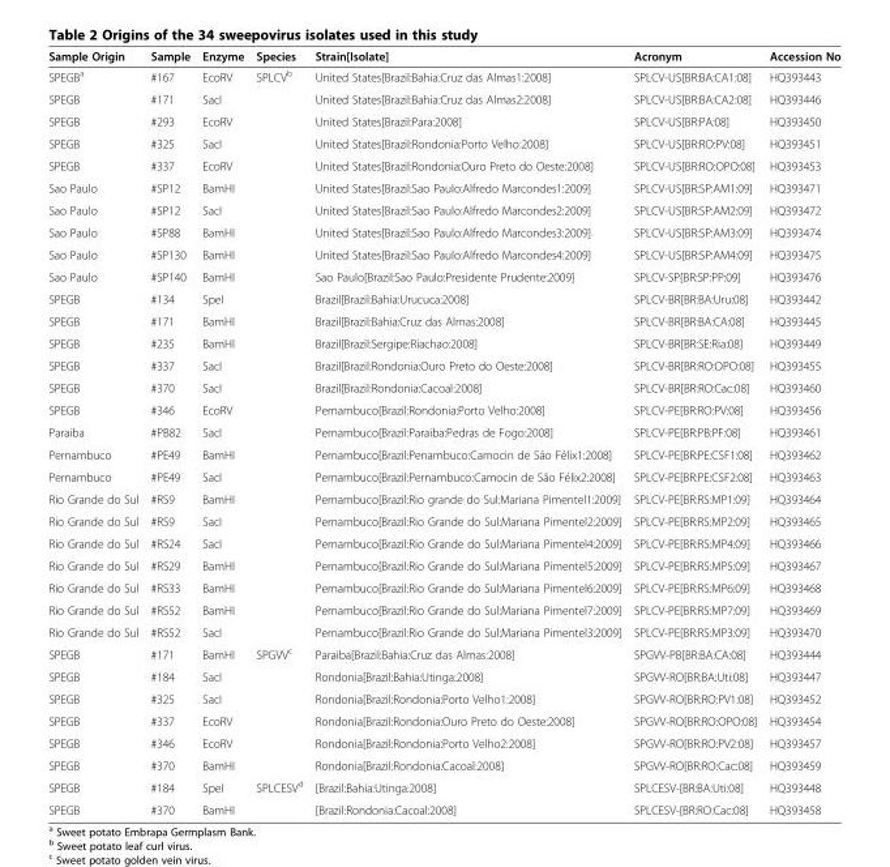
<table><thead><tr><td>Sample Origin</td><td>Sample</td><td>Enzyme</td><td>Species</td><td>Strain[Isolate]</td><td>Acronym</td><td>Accession No</td></tr></thead><tbody><tr><td>SPEGB<sup>a</sup></td><td>#167</td><td>EcoRV</td><td>SPLCV<sup>b</sup></td><td>United States[Brazil:Bahia:Cruz das Almas1:2008]</td><td>SPLCV-US[BR:BA:CA1:08]</td><td>HQ393443</td></tr><tr><td>SPEGB</td><td>#171</td><td>SacI</td><td></td><td>United States[Brazil:Bahia:Cruz das Almas2:2008]</td><td>SPLCV-US[BR:BA:CA2:08]</td><td>HQ393446</td></tr><tr><td>SPEGB</td><td>#293</td><td>EcoRV</td><td></td><td>United States[Brazil:Para:2008]</td><td>SPLCV-US[BR:PA:08]</td><td>HQ393450</td></tr><tr><td>SPEGB</td><td>#325</td><td>SacI</td><td></td><td>United States[Brazil:Rondonia:Porto Velho:2008]</td><td>SPLCV-US[BR:RO:PV:08]</td><td>HQ393451</td></tr><tr><td>SPEGB</td><td>#337</td><td>EcoRV</td><td></td><td>United States[Brazil:Rondonia:Ouro Preto do Oeste:2008]</td><td>SPLCV-US[BR:RO:OPO:08]</td><td>HQ393453</td></tr><tr><td>Sao Paulo</td><td>#SP12</td><td>BamHI</td><td></td><td>United States[Brazil:Sao Paulo:Alfredo Marcondes1:2009]</td><td>SPLCV-US[BR:SP:AM1:09]</td><td>HQ393471</td></tr><tr><td>Sao Paulo</td><td>#SP12</td><td>SacI</td><td></td><td>United States[Brazil:Sao Paulo:Alfredo Marcondes2:2009]</td><td>SPLCV-US[BR:SP:AM2:09]</td><td>HQ393472</td></tr><tr><td>Sao Paulo</td><td>#SP88</td><td>BamHI</td><td></td><td>United States[Brazil:Sao Paulo:Alfredo Marcondes3:2009]</td><td>SPLCV-US[BR:SP:AM3:09]</td><td>HQ393474</td></tr><tr><td>Sao Paulo</td><td>#SP130</td><td>BamHI</td><td></td><td>United States[Brazil:Sao Paulo:Alfredo Marcondes4:2009]</td><td>SPLCV-US[BR:SP:AM4:09]</td><td>HQ393475</td></tr><tr><td>Sao Paulo</td><td>#SP140</td><td>BamHI</td><td></td><td>Sao Paulo[Brazil:Sao Paulo:Presidente Prudente:2009]</td><td>SPLCV-SP[BR:SP:PP:09]</td><td>HQ393476</td></tr><tr><td>SPEGB</td><td>#134</td><td>SpeI</td><td></td><td>Brazil[Brazil:Bahia:Urucuca:2008]</td><td>SPLCV-BR[BR:BA:Uru:08]</td><td>HQ393442</td></tr><tr><td>SPEGB</td><td>#171</td><td>BamHI</td><td></td><td>Brazil[Brazil:Bahia:Cruz das Almas:2008]</td><td>SPLCV-BR[BR:BA:CA:08]</td><td>HQ393445</td></tr><tr><td>SPEGB</td><td>#235</td><td>BamHI</td><td></td><td>Brazil[Brazil:Sergipe:Riachao:2008]</td><td>SPLCV-BR[BR:SE:Ria:08]</td><td>HQ393449</td></tr><tr><td>SPEGB</td><td>#337</td><td>SacI</td><td></td><td>Brazil[Brazil:Rondonia:Ouro Preto do Oeste:2008]</td><td>SPLCV-BR[BR:RO:OPO:08]</td><td>HQ393455</td></tr><tr><td>SPEGB</td><td>#370</td><td>SacI</td><td></td><td>Brazil[Brazil:Rondonia:Cacoal:2008]</td><td>SPLCV-BR[BR:RO:Cac:08]</td><td>HQ393460</td></tr><tr><td>SPEGB</td><td>#346</td><td>EcoRV</td><td></td><td>Pernambuco[Brazil:Rondonia:Porto Velho:2008]</td><td>SPLCV-PE[BR:RO:PV:08]</td><td>HQ393456</td></tr><tr><td>Paraiba</td><td>#PB82</td><td>SacI</td><td></td><td>Pernambuco[Brazil:Paraiba:Pedras de Fogo:2008]</td><td>SPLCV-PE[BR:PB:PF:08]</td><td>HQ393461</td></tr><tr><td>Pernambuco</td><td>#PE49</td><td>BamHI</td><td></td><td>Pernambuco[Brazil:Penambuco:Camocin de São Félix1:2008]</td><td>SPLCV-PE[BR:PE:CSF1:08]</td><td>HQ393462</td></tr><tr><td>Pernambuco</td><td>#PE49</td><td>SacI</td><td></td><td>Pernambuco[Brazil:Pernambuco:Camocin de São Félix2:2008]</td><td>SPLCV-PE[BR:PE:CSF2:08]</td><td>HQ393463</td></tr><tr><td>Rio Grande do Sul</td><td>#RS9</td><td>BamHI</td><td></td><td>Pernambuco[Brazil:Rio grande do Sul:Mariana Pimentel1:2009]</td><td>SPLCV-PE[BR:RS:MP1:09]</td><td>HQ393464</td></tr><tr><td>Rio Grande do Sul</td><td>#RS9</td><td>SacI</td><td></td><td>Pernambuco[Brazil:Rio Grande do Sul:Mariana Pimentel2:2009]</td><td>SPLCV-PE[BR:RS:MP2:09]</td><td>HQ393465</td></tr><tr><td>Rio Grande do Sul</td><td>#RS24</td><td>SacI</td><td></td><td>Pernambuco[Brazil:Rio Grande do Sul:Mariana Pimentel4:2009]</td><td>SPLCV-PE[BR:RS:MP4:09]</td><td>HQ393466</td></tr><tr><td>Rio Grande do Sul</td><td>#RS29</td><td>BamHI</td><td></td><td>Pernambuco[Brazil:Rio Grande do Sul:Mariana Pimentel5:2009]</td><td>SPLCV-PE[BR:RS:MP5:09]</td><td>HQ393467</td></tr><tr><td>Rio Grande do Sul</td><td>#RS33</td><td>BamHI</td><td></td><td>Pernambuco[Brazil:Rio Grande do Sul:Mariana Pimentel6:2009]</td><td>SPLCV-PE[BR:RS:MP6:09]</td><td>HQ393468</td></tr><tr><td>Rio Grande do Sul</td><td>#RS52</td><td>BamHI</td><td></td><td>Pernambuco[Brazil:Rio Grande do Sul:Mariana Pimentel7:2009]</td><td>SPLCV-PE[BR:RS:MP7:09]</td><td>HQ393469</td></tr><tr><td>Rio Grande do Sul</td><td>#RS52</td><td>SacI</td><td></td><td>Pernambuco[Brazil:Rio Grande do Sul:Mariana Pimentel3:2009]</td><td>SPLCV-PE[BR:RS:MP3:09]</td><td>HQ393470</td></tr><tr><td>SPEGB</td><td>#171</td><td>BamHI</td><td>SPGVV<sup>c</sup></td><td>Paraiba[Brazil:Bahia:Cruz das Almas:2008]</td><td>SPGVV-PB[BR:BA:CA:08]</td><td>HQ393444</td></tr><tr><td>SPEGB</td><td>#184</td><td>SacI</td><td></td><td>Rondonia[Brazil:Bahia:Utinga:2008]</td><td>SPGVV-RO[BR:BA:Uti:08]</td><td>HQ393447</td></tr><tr><td>SPEGB</td><td>#325</td><td>SacI</td><td></td><td>Rondonia[Brazil:Rondonia:Porto Velho1:2008]</td><td>SPGVV-RO[BR:RO:PV1:08]</td><td>HQ393452</td></tr><tr><td>SPEGB</td><td>#337</td><td>EcoRV</td><td></td><td>Rondonia[Brazil:Rondonia:Ouro Preto do Oeste:2008]</td><td>SPGVV-RO[BR:RO:OPO:08]</td><td>HQ393454</td></tr><tr><td>SPEGB</td><td>#346</td><td>EcoRV</td><td></td><td>Rondonia[Brazil:Rondonia:Porto Velho2:2008]</td><td>SPGVV-RO[BR:RO:PV2:08]</td><td>HQ393457</td></tr><tr><td>SPEGB</td><td>#370</td><td>BamHI</td><td></td><td>Rondonia[Brazil:Rondonia:Cacoal:2008]</td><td>SPGVV-RO[BR:RO:Cac:08]</td><td>HQ393459</td></tr><tr><td>SPEGB</td><td>#184</td><td>SpeI</td><td>SPLCESV<sup>d</sup></td><td>[Brazil:Bahia:Utinga:2008]</td><td>SPLCESV-[BR:BA:Uti:08]</td><td>HQ393448</td></tr><tr><td>SPEGB</td><td>#370</td><td>BamHI</td><td></td><td>[Brazil:Rondonia:Cacoal:2008]</td><td>SPLCESV-[BR:RO:Cac:08]</td><td>HQ393458</td></tr></tbody></table>